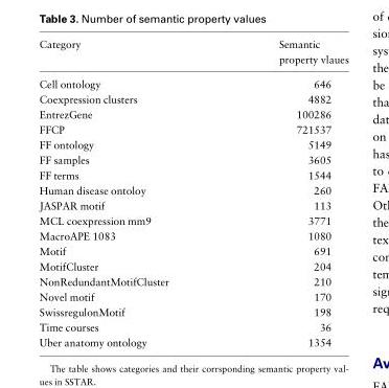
<table><thead><tr><td>Category</td><td>Semantic property vlaues</td></tr></thead><tbody><tr><td>Cell ontology</td><td>646</td></tr><tr><td>Coexpression clusters</td><td>4882</td></tr><tr><td>EntrezGene</td><td>100286</td></tr><tr><td>FFCP</td><td>721537</td></tr><tr><td>FF ontology</td><td>5149</td></tr><tr><td>FF samples</td><td>3605</td></tr><tr><td>FF terms</td><td>1544</td></tr><tr><td>Human disease ontoloy</td><td>260</td></tr><tr><td>JASPAR motif</td><td>113</td></tr><tr><td>MCL coexpression mm9</td><td>3771</td></tr><tr><td>MacroAPE 1083</td><td>1080</td></tr><tr><td>Motif</td><td>691</td></tr><tr><td>MotifCluster</td><td>204</td></tr><tr><td>NonRedundantMotifCluster</td><td>210</td></tr><tr><td>Novel motif</td><td>170</td></tr><tr><td>SwissregulonMotif</td><td>198</td></tr><tr><td>Time courses</td><td>36</td></tr><tr><td>Uber anatomy ontology</td><td>1354</td></tr></tbody></table>